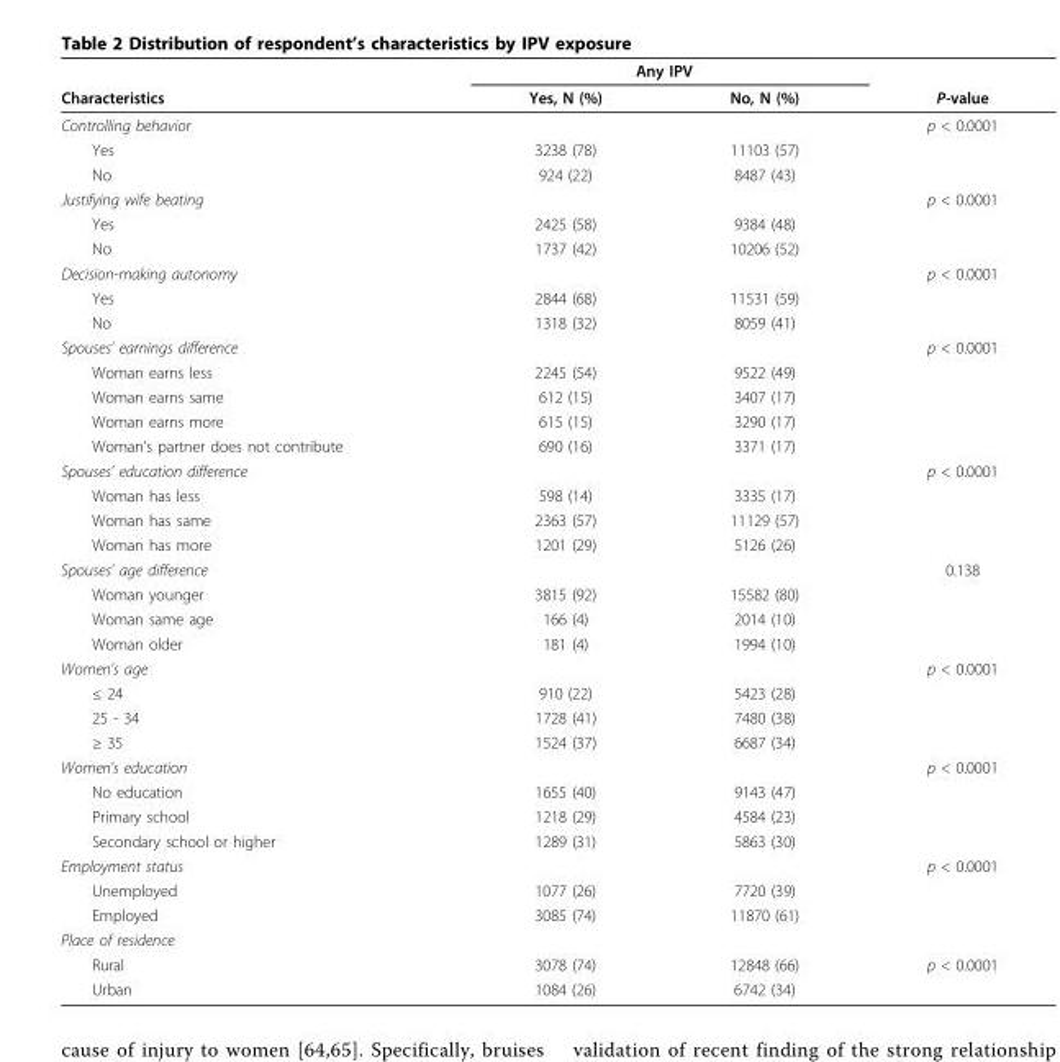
<table><thead><tr><td rowspan="2">Characteristics</td><td colspan="2">Any IPV</td><td rowspan="2">P-value</td></tr><tr><td>Yes, N (%)</td><td>No, N (%)</td></tr></thead><tbody><tr><td>Controlling behavior</td><td></td><td></td><td>p &lt; 0.0001</td></tr><tr><td>Yes</td><td>3238 (78)</td><td>11103 (57)</td><td></td></tr><tr><td>No</td><td>924 (22)</td><td>8487 (43)</td><td></td></tr><tr><td>Justifying wife beating</td><td></td><td></td><td>p &lt; 0.0001</td></tr><tr><td>Yes</td><td>2425 (58)</td><td>9384 (48)</td><td></td></tr><tr><td>No</td><td>1737 (42)</td><td>10206 (52)</td><td></td></tr><tr><td>Decision-making autonomy</td><td></td><td></td><td>p &lt; 0.0001</td></tr><tr><td>Yes</td><td>2844 (68)</td><td>11531 (59)</td><td></td></tr><tr><td>No</td><td>1318 (32)</td><td>8059 (41)</td><td></td></tr><tr><td>Spouses’ earnings difference</td><td></td><td></td><td>p &lt; 0.0001</td></tr><tr><td>Woman earns less</td><td>2245 (54)</td><td>9522 (49)</td><td></td></tr><tr><td>Woman earns same</td><td>612 (15)</td><td>3407 (17)</td><td></td></tr><tr><td>Woman earns more</td><td>615 (15)</td><td>3290 (17)</td><td></td></tr><tr><td>Woman’s partner does not contribute</td><td>690 (16)</td><td>3371 (17)</td><td></td></tr><tr><td>Spouses’ education difference</td><td></td><td></td><td>p &lt; 0.0001</td></tr><tr><td>Woman has less</td><td>598 (14)</td><td>3335 (17)</td><td></td></tr><tr><td>Woman has same</td><td>2363 (57)</td><td>11129 (57)</td><td></td></tr><tr><td>Woman has more</td><td>1201 (29)</td><td>5126 (26)</td><td></td></tr><tr><td>Spouses’ age difference</td><td></td><td></td><td>0.138</td></tr><tr><td>Woman younger</td><td>3815 (92)</td><td>15582 (80)</td><td></td></tr><tr><td>Woman same age</td><td>166 (4)</td><td>2014 (10)</td><td></td></tr><tr><td>Woman older</td><td>181 (4)</td><td>1994 (10)</td><td></td></tr><tr><td>Women’s age</td><td></td><td></td><td>p &lt; 0.0001</td></tr><tr><td>≤ 24</td><td>910 (22)</td><td>5423 (28)</td><td></td></tr><tr><td>25 - 34</td><td>1728 (41)</td><td>7480 (38)</td><td></td></tr><tr><td>≥ 35</td><td>1524 (37)</td><td>6687 (34)</td><td></td></tr><tr><td>Women’s education</td><td></td><td></td><td>p &lt; 0.0001</td></tr><tr><td>No education</td><td>1655 (40)</td><td>9143 (47)</td><td></td></tr><tr><td>Primary school</td><td>1218 (29)</td><td>4584 (23)</td><td></td></tr><tr><td>Secondary school or higher</td><td>1289 (31)</td><td>5863 (30)</td><td></td></tr><tr><td>Employment status</td><td></td><td></td><td>p &lt; 0.0001</td></tr><tr><td>Unemployed</td><td>1077 (26)</td><td>7720 (39)</td><td></td></tr><tr><td>Employed</td><td>3085 (74)</td><td>11870 (61)</td><td></td></tr><tr><td colspan="4">Place of residence</td></tr><tr><td>Rural</td><td>3078 (74)</td><td>12848 (66)</td><td>p &lt; 0.0001</td></tr><tr><td>Urban</td><td>1084 (26)</td><td>6742 (34)</td><td></td></tr></tbody></table>